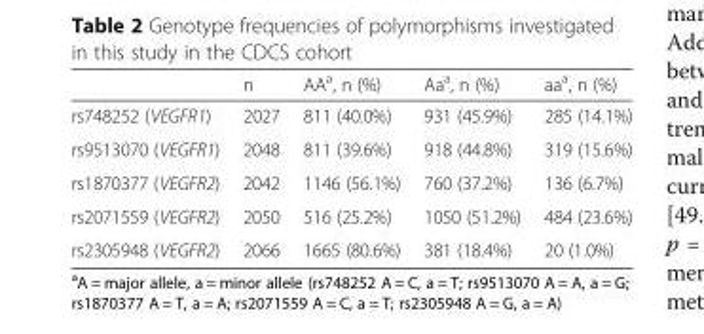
<table><thead><tr><td></td><td>n</td><td>AA<sup>a</sup>, n (%)</td><td>Aa<sup>a</sup>, n (%)</td><td>aa<sup>a</sup>, n (%)</td></tr></thead><tbody><tr><td>rs748252 (VEGFR1)</td><td>2027</td><td>811 (40.0%)</td><td>931 (45.9%)</td><td>285 (14.1%)</td></tr><tr><td>rs9513070 (VEGFR1)</td><td>2048</td><td>811 (39.6%)</td><td>918 (44.8%)</td><td>319 (15.6%)</td></tr><tr><td>rs1870377 (VEGFR2)</td><td>2042</td><td>1146 (56.1%)</td><td>760 (37.2%)</td><td>136 (6.7%)</td></tr><tr><td>rs2071559 (VEGFR2)</td><td>2050</td><td>516 (25.2%)</td><td>1050 (51.2%)</td><td>484 (23.6%)</td></tr><tr><td>rs2305948 (VEGFR2)</td><td>2066</td><td>1665 (80.6%)</td><td>381 (18.4%)</td><td>20 (1.0%)</td></tr></tbody></table>